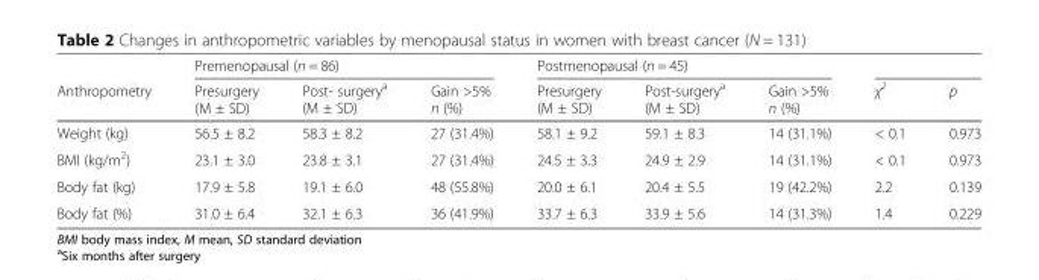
<table><thead><tr><td rowspan="2">Anthropometry</td><td colspan="3">Premenopausal (n = 86)</td><td colspan="3">Postmenopausal (n = 45)</td><td rowspan="2">χ<sup>2</sup></td><td rowspan="2">p</td></tr><tr><td>Presurgery (M ± SD)</td><td>Post- surgery<sup>a</sup> (M ± SD)</td><td>Gain &gt;5% n (%)</td><td>Presurgery (M ± SD)</td><td>Post-surgery<sup>a</sup> (M ± SD)</td><td>Gain &gt;5% n (%)</td></tr></thead><tbody><tr><td>Weight (kg)</td><td>56.5 ± 8.2</td><td>58.3 ± 8.2</td><td>27 (31.4%)</td><td>58.1 ± 9.2</td><td>59.1 ± 8.3</td><td>14 (31.1%)</td><td>&lt; 0.1</td><td>0.973</td></tr><tr><td>BMI (kg/m<sup>2</sup>)</td><td>23.1 ± 3.0</td><td>23.8 ± 3.1</td><td>27 (31.4%)</td><td>24.5 ± 3.3</td><td>24.9 ± 2.9</td><td>14 (31.1%)</td><td>&lt; 0.1</td><td>0.973</td></tr><tr><td>Body fat (kg)</td><td>17.9 ± 5.8</td><td>19.1 ± 6.0</td><td>48 (55.8%)</td><td>20.0 ± 6.1</td><td>20.4 ± 5.5</td><td>19 (42.2%)</td><td>2.2</td><td>0.139</td></tr><tr><td>Body fat (%)</td><td>31.0 ± 6.4</td><td>32.1 ± 6.3</td><td>36 (41.9%)</td><td>33.7 ± 6.3</td><td>33.9 ± 5.6</td><td>14 (31.3%)</td><td>1.4</td><td>0.229</td></tr></tbody></table>